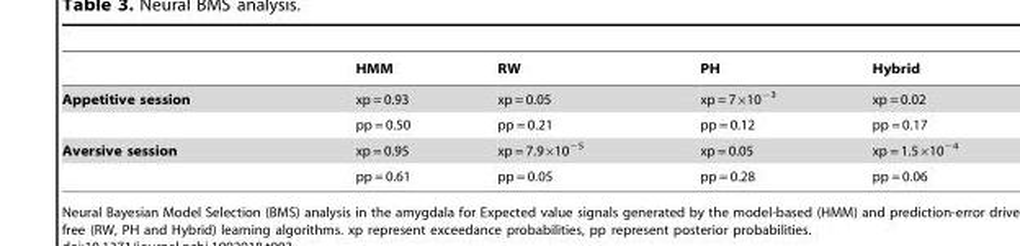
<table><thead><tr><td></td><td>HMM</td><td>RW</td><td>PH</td><td>Hybrid</td></tr></thead><tbody><tr><td rowspan="2">Appetitive session</td><td>xp = 0.93</td><td>xp = 0.05</td><td>xp = 7×10<sup>−3</sup></td><td>xp = 0.02</td></tr><tr><td>pp = 0.50</td><td>pp = 0.21</td><td>pp = 0.12</td><td>pp = 0.17</td></tr><tr><td rowspan="2">Aversive session</td><td>xp = 0.95</td><td>xp = 7.9×10<sup>−5</sup></td><td>xp = 0.05</td><td>xp = 1.5×10<sup>−4</sup></td></tr><tr><td>pp = 0.61</td><td>pp = 0.05</td><td>pp = 0.28</td><td>pp = 0.06</td></tr></tbody></table>